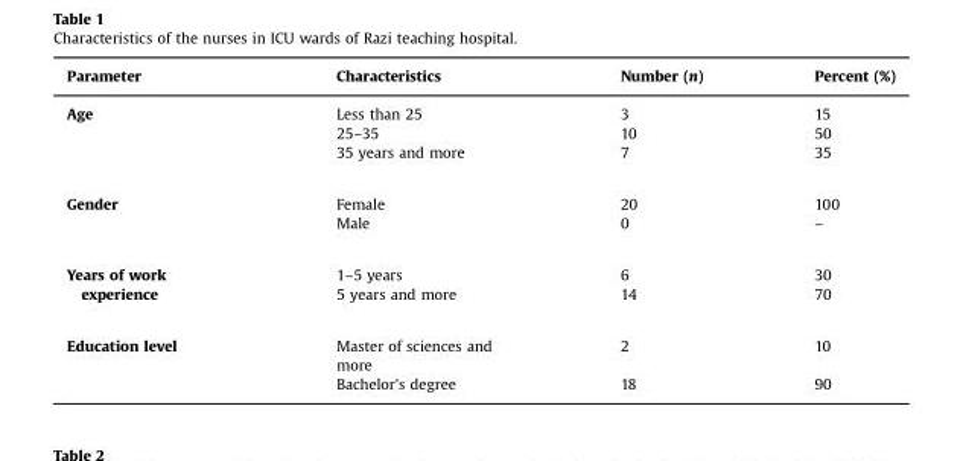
<table><thead><tr><td>Parameter</td><td>Characteristics</td><td>Number (n)</td><td>Percent (%)</td></tr></thead><tbody><tr><td rowspan="3">Age</td><td>Less than 25</td><td>3</td><td>15</td></tr><tr><td>25–35</td><td>10</td><td>50</td></tr><tr><td>35 years and more</td><td>7</td><td>35</td></tr><tr><td rowspan="2">Gender</td><td>Female</td><td>20</td><td>100</td></tr><tr><td>Male</td><td>0</td><td>–</td></tr><tr><td rowspan="2">Years of work experience</td><td>1–5 years</td><td>6</td><td>30</td></tr><tr><td>5 years and more</td><td>14</td><td>70</td></tr><tr><td rowspan="2">Education level</td><td>Master of sciences and more</td><td>2</td><td>10</td></tr><tr><td>Bachelor&#x27;s degree</td><td>18</td><td>90</td></tr></tbody></table>